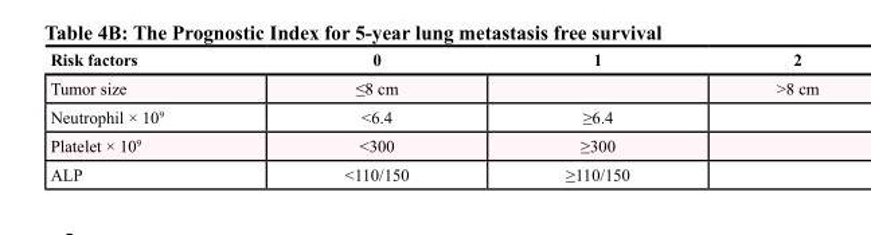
<table><thead><tr><td>Risk factors</td><td>0</td><td>1</td><td>2</td></tr></thead><tbody><tr><td>Tumor size</td><td>≤8 cm</td><td></td><td>&gt;8 cm</td></tr><tr><td>Neutrophil × 10<sup>9</sup></td><td>&lt;6.4</td><td>≥6.4</td><td></td></tr><tr><td>Platelet × 10<sup>9</sup></td><td>&lt;300</td><td>≥300</td><td></td></tr><tr><td>ALP</td><td>&lt;110/150</td><td>≥110/150</td><td></td></tr></tbody></table>